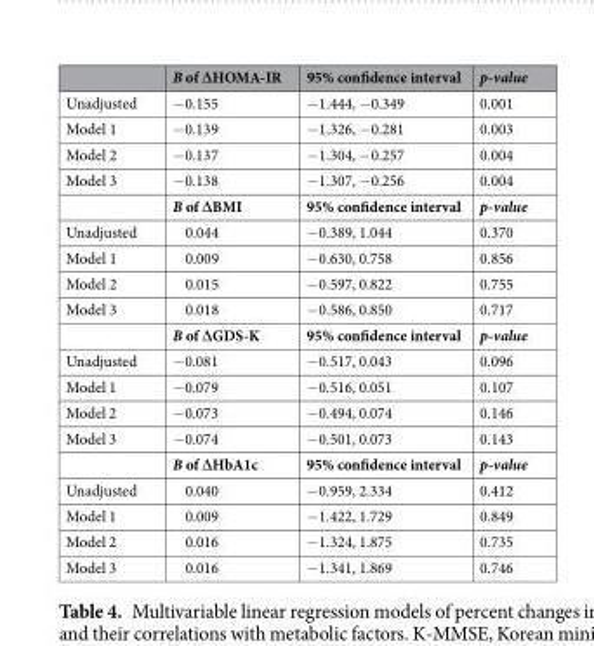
<table><thead><tr><td></td><td>B of ∆HOMA-IR</td><td>95% confidence interval</td><td>p-value</td></tr></thead><tbody><tr><td>Unadjusted</td><td>−0.155</td><td>−1.444, −0.349</td><td>0.001</td></tr><tr><td>Model 1</td><td>−0.139</td><td>−1.326, −0.281</td><td>0.003</td></tr><tr><td>Model 2</td><td>−0.137</td><td>−1.304, −0.257</td><td>0.004</td></tr><tr><td rowspan="2">Model 3</td><td>−0.138</td><td>−1.307, −0.256</td><td>0.004</td></tr><tr><td>B of ∆BMI</td><td>95% confidence interval</td><td>p-value</td></tr><tr><td>Unadjusted</td><td>0.044</td><td>−0.389, 1.044</td><td>0.370</td></tr><tr><td>Model 1</td><td>0.009</td><td>−0.630, 0.758</td><td>0.856</td></tr><tr><td>Model 2</td><td>0.015</td><td>−0.597, 0.822</td><td>0.755</td></tr><tr><td rowspan="2">Model 3</td><td>0.018</td><td>−0.586, 0.850</td><td>0.717</td></tr><tr><td>B of ∆GDS-K</td><td>95% confidence interval</td><td>p-value</td></tr><tr><td>Unadjusted</td><td>−0.081</td><td>−0.517, 0.043</td><td>0.096</td></tr><tr><td>Model 1</td><td>−0.079</td><td>−0.516, 0.051</td><td>0.107</td></tr><tr><td>Model 2</td><td>−0.073</td><td>−0.494, 0.074</td><td>0.146</td></tr><tr><td rowspan="2">Model 3</td><td>−0.074</td><td>−0.501, 0.073</td><td>0.143</td></tr><tr><td>B of ∆HbA1c</td><td>95% confidence interval</td><td>p-value</td></tr><tr><td>Unadjusted</td><td>0.040</td><td>−0.959, 2.334</td><td>0.412</td></tr><tr><td>Model 1</td><td>0.009</td><td>−1.422, 1.729</td><td>0.849</td></tr><tr><td>Model 2</td><td>0.016</td><td>−1.324, 1.875</td><td>0.735</td></tr><tr><td>Model 3</td><td>0.016</td><td>−1.341, 1.869</td><td>0.746</td></tr></tbody></table>